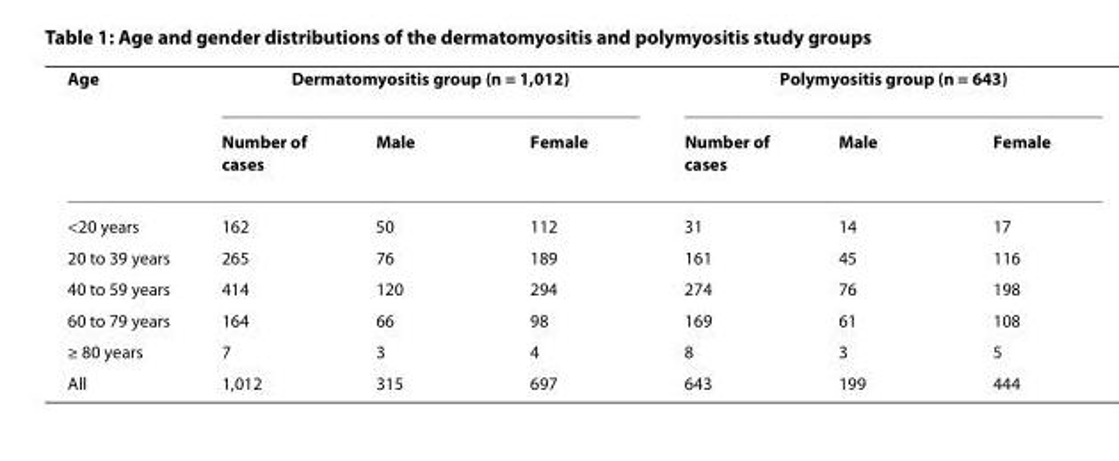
<table><thead><tr><td rowspan="2">Age</td><td colspan="3">Dermatomyositis group (n = 1,012)</td><td colspan="3">Polymyositis group (n = 643)</td></tr><tr><td>Number of cases</td><td>Male</td><td>Female</td><td>Number of cases</td><td>Male</td><td>Female</td></tr></thead><tbody><tr><td>&lt;20 years</td><td>162</td><td>50</td><td>112</td><td>31</td><td>14</td><td>17</td></tr><tr><td>20 to 39 years</td><td>265</td><td>76</td><td>189</td><td>161</td><td>45</td><td>116</td></tr><tr><td>40 to 59 years</td><td>414</td><td>120</td><td>294</td><td>274</td><td>76</td><td>198</td></tr><tr><td>60 to 79 years</td><td>164</td><td>66</td><td>98</td><td>169</td><td>61</td><td>108</td></tr><tr><td>≥ 80 years</td><td>7</td><td>3</td><td>4</td><td>8</td><td>3</td><td>5</td></tr><tr><td>All</td><td>1,012</td><td>315</td><td>697</td><td>643</td><td>199</td><td>444</td></tr></tbody></table>